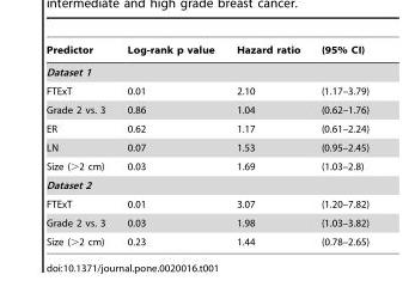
<table><thead><tr><td>Predictor</td><td>Log-rank p value</td><td>Hazard ratio</td><td>(95% CI)</td></tr></thead><tbody><tr><td colspan="4">Dataset 1</td></tr><tr><td>FTExT</td><td>0.01</td><td>2.10</td><td>(1.17–3.79)</td></tr><tr><td>Grade 2 vs. 3</td><td>0.86</td><td>1.04</td><td>(0.62–1.76)</td></tr><tr><td>ER</td><td>0.62</td><td>1.17</td><td>(0.61–2.24)</td></tr><tr><td>LN</td><td>0.07</td><td>1.53</td><td>(0.95–2.45)</td></tr><tr><td>Size (&gt;2 cm)</td><td>0.03</td><td>1.69</td><td>(1.03–2.8)</td></tr><tr><td colspan="4">Dataset 2</td></tr><tr><td>FTExT</td><td>0.01</td><td>3.07</td><td>(1.20–7.82)</td></tr><tr><td>Grade 2 vs. 3</td><td>0.03</td><td>1.98</td><td>(1.03–3.82)</td></tr><tr><td>Size (&gt;2 cm)</td><td>0.23</td><td>1.44</td><td>(0.78–2.65)</td></tr></tbody></table>